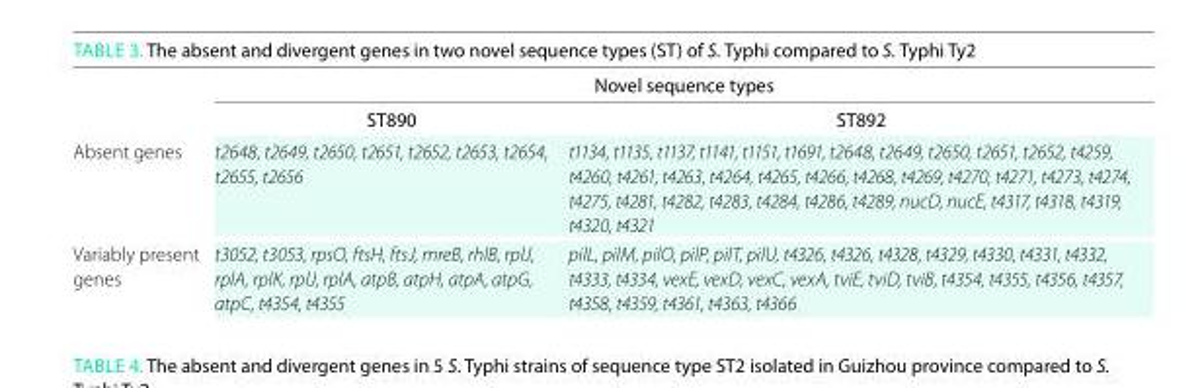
<table><thead><tr><td rowspan="2"></td><td colspan="2">novel sequence types</td></tr><tr><td>st890</td><td>st892</td></tr></thead><tbody><tr><td>Absent genes</td><td>t2648, t2649, t2650, t2651, t2652, t2653, t2654, t2655, t2656</td><td>t1134, t1135, t1137, t1141, t1151, t1691, t2648, t2649, t2650, t2651, t2652, t4259, t4260, t4261, t4263, t4264, t4265, t4266, t4268, t4269, t4270, t4271, t4273, t4274, t4275, t4281, t4282, t4283, t4284, t4286, t4289, nucD, nucE, t4317, t4318, t4319, t4320, t4321</td></tr><tr><td>Variably present genes</td><td>t3052, t3053, rpsO, ftsH, ftsJ, mreB, rhlB, rplJ, rplA, rplK, rplJ, rplA, atpB, atpH, atpA, atpG, atpC, t4354, t4355</td><td>pilL, pilM, pilO, pilP, pilT, pilU, t4326, t4326, t4328, t4329, t4330, t4331, t4332, t4333, t4334, vexE, vexD, vexC, vexA, tviE, tviD, tviB, t4354, t4355, t4356, t4357, t4358, t4359, t4361, t4363, t4366</td></tr></tbody></table>